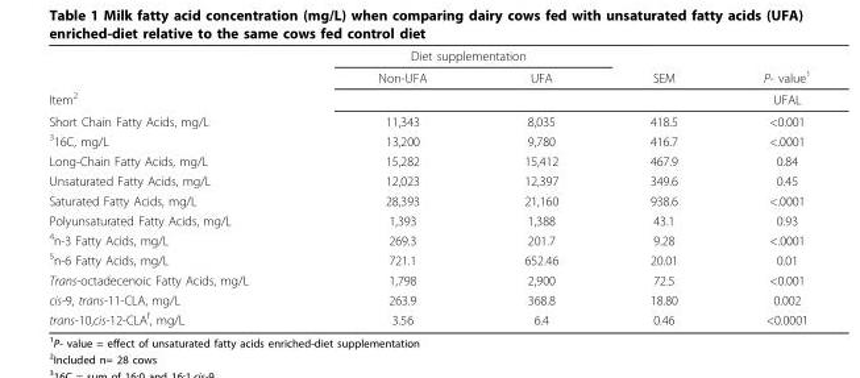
<table><thead><tr><td rowspan="2"></td><td colspan="2">Diet supplementation</td><td rowspan="2">SEM</td><td rowspan="2">P- value<sup>1</sup></td></tr><tr><td>Non-UFA</td><td>UFA</td></tr></thead><tbody><tr><td>Item<sup>2</sup></td><td></td><td></td><td></td><td>UFAL</td></tr><tr><td>Short Chain Fatty Acids, mg/L</td><td>11,343</td><td>8,035</td><td>418.5</td><td>&lt;0.001</td></tr><tr><td><sup>3</sup>16C, mg/L</td><td>13,200</td><td>9,780</td><td>416.7</td><td>&lt;.0001</td></tr><tr><td>Long-Chain Fatty Acids, mg/L</td><td>15,282</td><td>15,412</td><td>467.9</td><td>0.84</td></tr><tr><td>Unsaturated Fatty Acids, mg/L</td><td>12,023</td><td>12,397</td><td>349.6</td><td>0.45</td></tr><tr><td>Saturated Fatty Acids, mg/L</td><td>28,393</td><td>21,160</td><td>938.6</td><td>&lt;.0001</td></tr><tr><td>Polyunsaturated Fatty Acids, mg/L</td><td>1,393</td><td>1,388</td><td>43.1</td><td>0.93</td></tr><tr><td><sup>4</sup>n-3 Fatty Acids, mg/L</td><td>269.3</td><td>201.7</td><td>9.28</td><td>&lt;.0001</td></tr><tr><td><sup>5</sup>n-6 Fatty Acids, mg/L</td><td>721.1</td><td>652.46</td><td>20.01</td><td>0.01</td></tr><tr><td>Trans-octadecenoic Fatty Acids, mg/L</td><td>1,798</td><td>2,900</td><td>72.5</td><td>&lt;0.001</td></tr><tr><td>cis-9, trans-11-CLA, mg/L</td><td>263.9</td><td>368.8</td><td>18.80</td><td>0.002</td></tr><tr><td>trans-10,cis-12-CLA<sup>f</sup>, mg/L</td><td>3.56</td><td>6.4</td><td>0.46</td><td>&lt;0.0001</td></tr></tbody></table>